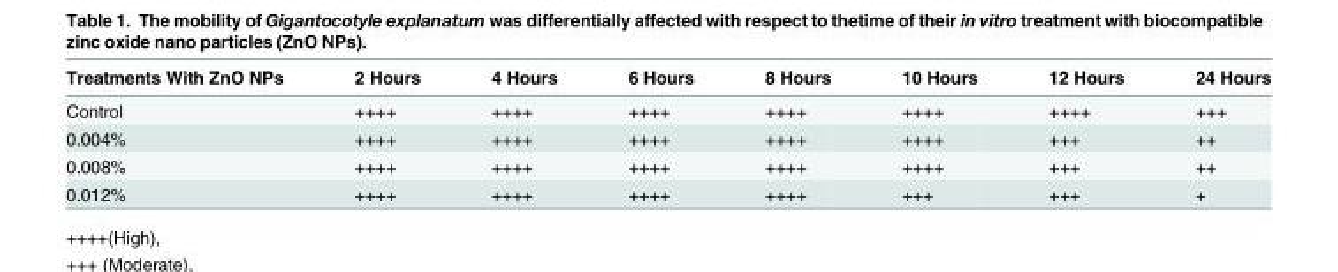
<table><thead><tr><td>Treatments With ZnO NPs</td><td>2 Hours</td><td>4 Hours</td><td>6 Hours</td><td>8 Hours</td><td>10 Hours</td><td>12 Hours</td><td>24 Hours</td></tr></thead><tbody><tr><td>Control</td><td>++++</td><td>++++</td><td>++++</td><td>++++</td><td>++++</td><td>++++</td><td>+++</td></tr><tr><td>0.004%</td><td>++++</td><td>++++</td><td>++++</td><td>++++</td><td>++++</td><td>+++</td><td>++</td></tr><tr><td>0.008%</td><td>++++</td><td>++++</td><td>++++</td><td>++++</td><td>++++</td><td>+++</td><td>++</td></tr><tr><td>0.012%</td><td>++++</td><td>++++</td><td>++++</td><td>++++</td><td>+++</td><td>+++</td><td>+</td></tr></tbody></table>